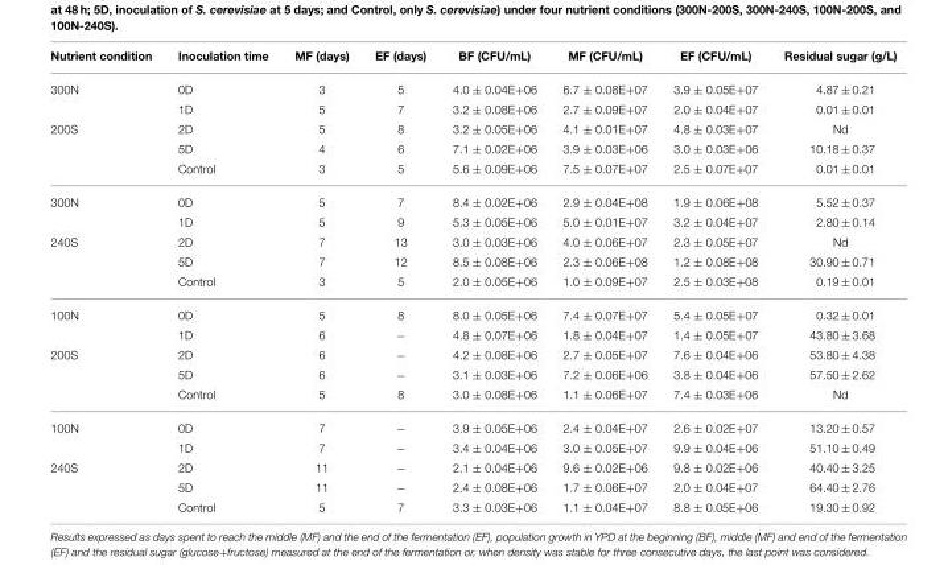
<table><thead><tr><td>Nutrient condition</td><td>Inoculation time</td><td>MF (days)</td><td>EF (days)</td><td>BF (CFU/mL)</td><td>MF (CFU/mL)</td><td>EF (CFU/mL)</td><td>Residual sugar (g/L)</td></tr></thead><tbody><tr><td rowspan="2">300N</td><td>0D</td><td>3</td><td>5</td><td>4.0 ± 0.04E+06</td><td>6.7 ± 0.08E+07</td><td>3.9 ± 0.05E+07</td><td>4.87 ± 0.21</td></tr><tr><td>1D</td><td>5</td><td>7</td><td>3.2 ± 0.08E+06</td><td>2.7 ± 0.09E+07</td><td>2.0 ± 0.04E+07</td><td>0.01 ± 0.01</td></tr><tr><td rowspan="3">200S</td><td>2D</td><td>5</td><td>8</td><td>3.2 ± 0.05E+06</td><td>4.1 ± 0.01E+07</td><td>4.8 ± 0.03E+07</td><td>Nd</td></tr><tr><td>5D</td><td>4</td><td>6</td><td>7.1 ± 0.02E+06</td><td>3.9 ± 0.03E+06</td><td>3.0 ± 0.03E+06</td><td>10.18 ± 0.37</td></tr><tr><td>Control</td><td>3</td><td>5</td><td>5.6 ± 0.09E+06</td><td>7.5 ± 0.07E+07</td><td>2.5 ± 0.07E+07</td><td>0.01 ± 0.01</td></tr><tr><td rowspan="2">300N</td><td>0D</td><td>5</td><td>7</td><td>8.4 ± 0.02E+06</td><td>2.9 ± 0.04E+08</td><td>1.9 ± 0.06E+08</td><td>5.52 ± 0.37</td></tr><tr><td>1D</td><td>5</td><td>9</td><td>5.3 ± 0.05E+06</td><td>5.0 ± 0.01E+07</td><td>3.2 ± 0.04E+07</td><td>2.80 ± 0.14</td></tr><tr><td rowspan="3">240S</td><td>2D</td><td>7</td><td>13</td><td>3.0 ± 0.03E+06</td><td>4.0 ± 0.06E+07</td><td>2.3 ± 0.05E+07</td><td>Nd</td></tr><tr><td>5D</td><td>7</td><td>12</td><td>8.5 ± 0.08E+06</td><td>2.3 ± 0.06E+08</td><td>1.2 ± 0.08E+08</td><td>30.90 ± 0.71</td></tr><tr><td>Control</td><td>3</td><td>5</td><td>2.0 ± 0.05E+06</td><td>1.0 ± 0.09E+07</td><td>2.5 ± 0.03E+08</td><td>0.19 ± 0.01</td></tr><tr><td rowspan="2">100N</td><td>0D</td><td>5</td><td>8</td><td>8.0 ± 0.05E+06</td><td>7.4 ± 0.07E+07</td><td>5.4 ± 0.05E+07</td><td>0.32 ± 0.01</td></tr><tr><td>1D</td><td>6</td><td>−</td><td>4.8 ± 0.07E+06</td><td>1.8 ± 0.04E+07</td><td>1.4 ± 0.05E+07</td><td>43.80 ± 3.68</td></tr><tr><td rowspan="3">200S</td><td>2D</td><td>6</td><td>−</td><td>4.2 ± 0.08E+06</td><td>2.7 ± 0.05E+07</td><td>7.6 ± 0.04E+06</td><td>53.80 ± 4.38</td></tr><tr><td>5D</td><td>6</td><td>−</td><td>3.1 ± 0.03E+06</td><td>7.2 ± 0.06E+06</td><td>3.8 ± 0.04E+06</td><td>57.50 ± 2.62</td></tr><tr><td>Control</td><td>5</td><td>8</td><td>3.0 ± 0.08E+06</td><td>1.1 ± 0.06E+07</td><td>7.4 ± 0.03E+06</td><td>Nd</td></tr><tr><td rowspan="2">100N</td><td>0D</td><td>7</td><td>−</td><td>3.9 ± 0.05E+06</td><td>2.4 ± 0.04E+07</td><td>2.6 ± 0.02E+07</td><td>13.20 ± 0.57</td></tr><tr><td>1D</td><td>7</td><td>−</td><td>3.4 ± 0.04E+06</td><td>3.0 ± 0.05E+07</td><td>9.9 ± 0.04E+06</td><td>51.10 ± 0.49</td></tr><tr><td rowspan="3">240S</td><td>2D</td><td>11</td><td>−</td><td>2.1 ± 0.04E+06</td><td>9.6 ± 0.02E+06</td><td>9.8 ± 0.02E+06</td><td>40.40 ± 3.25</td></tr><tr><td>5D</td><td>11</td><td>−</td><td>2.4 ± 0.08E+06</td><td>1.7 ± 0.06E+07</td><td>2.0 ± 0.04E+07</td><td>64.40 ± 2.76</td></tr><tr><td>Control</td><td>5</td><td>7</td><td>3.3 ± 0.03E+06</td><td>1.1 ± 0.04E+07</td><td>8.8 ± 0.05E+06</td><td>19.30 ± 0.92</td></tr></tbody></table>